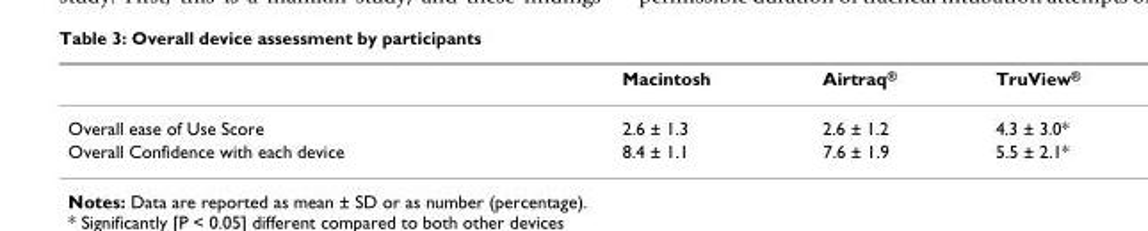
<table><thead><tr><td></td><td>Macintosh</td><td>Airtraq<sup>®</sup></td><td>TruView<sup>®</sup></td></tr></thead><tbody><tr><td>Overall ease of Use Score</td><td>2.6 ± 1.3</td><td>2.6 ± 1.2</td><td>4.3 ± 3.0*</td></tr><tr><td>Overall Confidence with each device</td><td>8.4 ± 1.1</td><td>7.6 ± 1.9</td><td>5.5 ± 2.1*</td></tr></tbody></table>